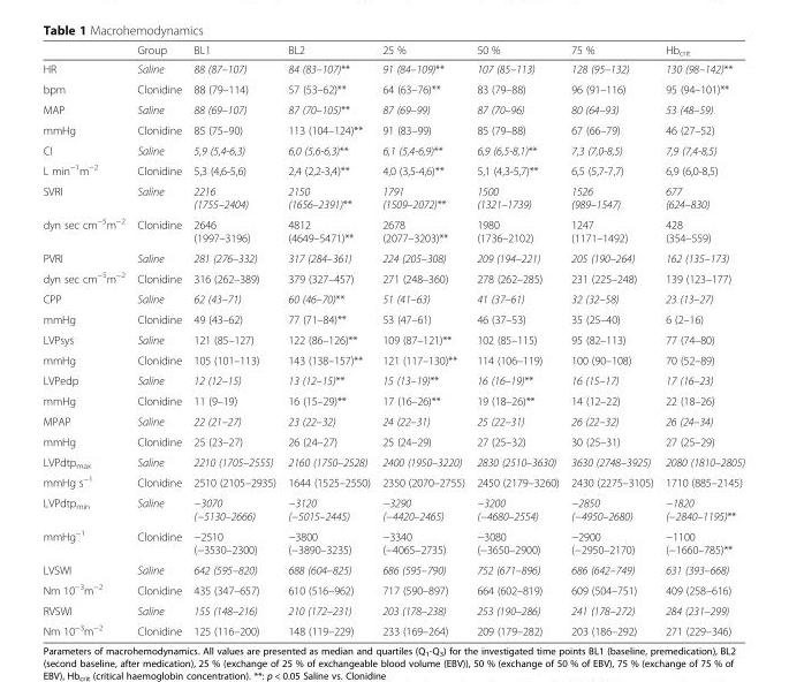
<table><thead><tr><td></td><td>Group</td><td>BL1</td><td>BL2</td><td>25 %</td><td>50 %</td><td>75 %</td><td>Hb<sub>crit</sub></td></tr></thead><tbody><tr><td>HR</td><td>Saline</td><td>88 (87–107)</td><td>84 (83–107)**</td><td>91 (84–109)**</td><td>107 (85–113)</td><td>128 (95–132)</td><td>130 (98–142)**</td></tr><tr><td>bpm</td><td>Clonidine</td><td>88 (79–114)</td><td>57 (53–62)**</td><td>64 (63–76)**</td><td>83 (79–88)</td><td>96 (91–116)</td><td>95 (94–101)**</td></tr><tr><td>MAP</td><td>Saline</td><td>88 (69–107)</td><td>87 (70–105)**</td><td>87 (69–99)</td><td>87 (70–96)</td><td>80 (64–93)</td><td>53 (48–59)</td></tr><tr><td>mmHg</td><td>Clonidine</td><td>85 (75–90)</td><td>113 (104–124)**</td><td>91 (83–99)</td><td>85 (79–88)</td><td>67 (66–79)</td><td>46 (27–52)</td></tr><tr><td>CI</td><td>Saline</td><td>5,9 (5,4-6,3)</td><td>6,0 (5,6-6,3)**</td><td>6,1 (5,4-6,9)**</td><td>6,9 (6,5-8,1)**</td><td>7,3 (7,0-8,5)</td><td>7,9 (7,4-8,5)</td></tr><tr><td>L min<sup>−1</sup>m<sup>−2</sup></td><td>Clonidine</td><td>5,3 (4,6-5,6)</td><td>2,4 (2,2-3,4)**</td><td>4,0 (3,5-4,6)**</td><td>5,1 (4,3-5,7)**</td><td>6,5 (5,7-7,7)</td><td>6,9 (6,0-8,5)</td></tr><tr><td>SVRI</td><td>Saline</td><td>2216 (1755–2404)</td><td>2150 (1656–2391)**</td><td>1791 (1509–2072)**</td><td>1500 (1321–1739)</td><td>1526 (989–1547)</td><td>677 (624–830)</td></tr><tr><td>dyn sec cm<sup>−5</sup>m<sup>−2</sup></td><td>Clonidine</td><td>2646 (1997–3196)</td><td>4812 (4649–5471)**</td><td>2678 (2077–3203)**</td><td>1980 (1736–2102)</td><td>1247 (1171–1492)</td><td>428 (354–559)</td></tr><tr><td>PVRI</td><td>Saline</td><td>281 (276–332)</td><td>317 (284–361)</td><td>224 (205–308)</td><td>209 (194–221)</td><td>205 (190–264)</td><td>162 (135–173)</td></tr><tr><td>dyn sec cm<sup>−5</sup>m<sup>−2</sup></td><td>Clonidine</td><td>316 (262–389)</td><td>379 (327–457)</td><td>271 (248–360)</td><td>278 (262–285)</td><td>231 (225–248)</td><td>139 (123–177)</td></tr><tr><td>CPP</td><td>Saline</td><td>62 (43–71)</td><td>60 (46–70)**</td><td>51 (41–63)</td><td>41 (37–61)</td><td>32 (32–58)</td><td>23 (13–27)</td></tr><tr><td>mmHg</td><td>Clonidine</td><td>49 (43–62)</td><td>77 (71–84)**</td><td>53 (47–61)</td><td>46 (37–53)</td><td>35 (25–40)</td><td>6 (2–16)</td></tr><tr><td>LVPsys</td><td>Saline</td><td>121 (85–127)</td><td>122 (86–126)**</td><td>109 (87–121)**</td><td>102 (85–115)</td><td>95 (82–113)</td><td>77 (74–80)</td></tr><tr><td>mmHg</td><td>Clonidine</td><td>105 (101–113)</td><td>143 (138–157)**</td><td>121 (117–130)**</td><td>114 (106–119)</td><td>100 (90–108)</td><td>70 (52–89)</td></tr><tr><td>LVPedp</td><td>Saline</td><td>12 (12–15)</td><td>13 (12–15)**</td><td>15 (13–19)**</td><td>16 (16–19)**</td><td>16 (15–17)</td><td>17 (16–23)</td></tr><tr><td>mmHg</td><td>Clonidine</td><td>11 (9–19)</td><td>16 (15–29)**</td><td>17 (16–26)**</td><td>19 (18–26)**</td><td>14 (12–22)</td><td>22 (18–26)</td></tr><tr><td>MPAP</td><td>Saline</td><td>22 (21–27)</td><td>23 (22–32)</td><td>24 (22–31)</td><td>25 (22–31)</td><td>26 (22–32)</td><td>26 (24–34)</td></tr><tr><td>mmHg</td><td>Clonidine</td><td>25 (23–27)</td><td>26 (24–27)</td><td>25 (24–29)</td><td>27 (25–32)</td><td>30 (25–31)</td><td>27 (25–29)</td></tr><tr><td>LVPdtp<sub>max</sub></td><td>Saline</td><td>2210 (1705–2555)</td><td>2160 (1750–2528)</td><td>2400 (1950–3220)</td><td>2830 (2510–3630)</td><td>3630 (2748–3925)</td><td>2080 (1810–2805)</td></tr><tr><td>mmHg s<sup>−1</sup></td><td>Clonidine</td><td>2510 (2105–2935)</td><td>1644 (1525–2550)</td><td>2350 (2070–2755)</td><td>2450 (2179–3260)</td><td>2430 (2275–3105)</td><td>1710 (885–2145)</td></tr><tr><td>LVPdtp<sub>min</sub></td><td>Saline</td><td>−3070 (−5130–2666)</td><td>−3120 (−5015–2445)</td><td>−3290 (−4420–2465)</td><td>−3200 (−4680–2554)</td><td>−2850 (−4950–2680)</td><td>−1820 (−2840–1195)**</td></tr><tr><td>mmHg<sup>−1</sup></td><td>Clonidine</td><td>−2510 (−3530–2300)</td><td>−3800 (−3890–3235)</td><td>−3340 (−4065–2735)</td><td>−3080 (−3650–2900)</td><td>−2900 (−2950–2170)</td><td>−1100 (−1660–785)**</td></tr><tr><td>LVSWI</td><td>Saline</td><td>642 (595–820)</td><td>688 (604–825)</td><td>686 (595–790)</td><td>752 (671–896)</td><td>686 (642–749)</td><td>631 (393–668)</td></tr><tr><td>Nm 10<sup>−3</sup>m<sup>−2</sup></td><td>Clonidine</td><td>435 (347–657)</td><td>610 (516–962)</td><td>717 (590–897)</td><td>664 (602–819)</td><td>609 (504–751)</td><td>409 (258–616)</td></tr><tr><td>RVSWI</td><td>Saline</td><td>155 (148–216)</td><td>210 (172–231)</td><td>203 (178–238)</td><td>253 (190–286)</td><td>241 (178–272)</td><td>284 (231–299)</td></tr><tr><td>Nm 10<sup>−3</sup>m<sup>−2</sup></td><td>Clonidine</td><td>125 (116–200)</td><td>148 (119–229)</td><td>233 (169–264)</td><td>209 (179–282)</td><td>203 (186–292)</td><td>271 (229–346)</td></tr></tbody></table>